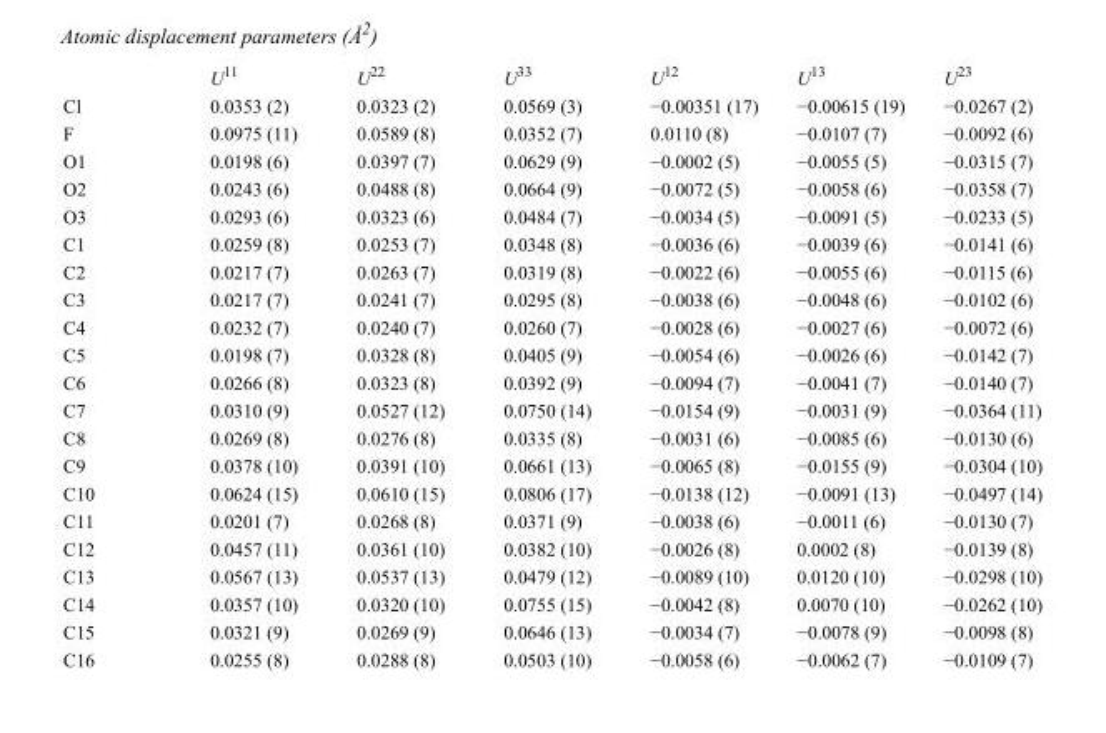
<table><thead><tr><td></td><td>U<sup>11</sup></td><td>U<sup>22</sup></td><td>U<sup>33</sup></td><td>U<sup>12</sup></td><td>U<sup>13</sup></td><td>U<sup>23</sup></td></tr></thead><tbody><tr><td>Cl</td><td>0.0353 (2)</td><td>0.0323 (2)</td><td>0.0569 (3)</td><td>−0.00351 (17)</td><td>−0.00615 (19)</td><td>−0.0267 (2)</td></tr><tr><td>F</td><td>0.0975 (11)</td><td>0.0589 (8)</td><td>0.0352 (7)</td><td>0.0110 (8)</td><td>−0.0107 (7)</td><td>−0.0092 (6)</td></tr><tr><td>O1</td><td>0.0198 (6)</td><td>0.0397 (7)</td><td>0.0629 (9)</td><td>−0.0002 (5)</td><td>−0.0055 (5)</td><td>−0.0315 (7)</td></tr><tr><td>O2</td><td>0.0243 (6)</td><td>0.0488 (8)</td><td>0.0664 (9)</td><td>−0.0072 (5)</td><td>−0.0058 (6)</td><td>−0.0358 (7)</td></tr><tr><td>O3</td><td>0.0293 (6)</td><td>0.0323 (6)</td><td>0.0484 (7)</td><td>−0.0034 (5)</td><td>−0.0091 (5)</td><td>−0.0233 (5)</td></tr><tr><td>C1</td><td>0.0259 (8)</td><td>0.0253 (7)</td><td>0.0348 (8)</td><td>−0.0036 (6)</td><td>−0.0039 (6)</td><td>−0.0141 (6)</td></tr><tr><td>C2</td><td>0.0217 (7)</td><td>0.0263 (7)</td><td>0.0319 (8)</td><td>−0.0022 (6)</td><td>−0.0055 (6)</td><td>−0.0115 (6)</td></tr><tr><td>C3</td><td>0.0217 (7)</td><td>0.0241 (7)</td><td>0.0295 (8)</td><td>−0.0038 (6)</td><td>−0.0048 (6)</td><td>−0.0102 (6)</td></tr><tr><td>C4</td><td>0.0232 (7)</td><td>0.0240 (7)</td><td>0.0260 (7)</td><td>−0.0028 (6)</td><td>−0.0027 (6)</td><td>−0.0072 (6)</td></tr><tr><td>C5</td><td>0.0198 (7)</td><td>0.0328 (8)</td><td>0.0405 (9)</td><td>−0.0054 (6)</td><td>−0.0026 (6)</td><td>−0.0142 (7)</td></tr><tr><td>C6</td><td>0.0266 (8)</td><td>0.0323 (8)</td><td>0.0392 (9)</td><td>−0.0094 (7)</td><td>−0.0041 (7)</td><td>−0.0140 (7)</td></tr><tr><td>C7</td><td>0.0310 (9)</td><td>0.0527 (12)</td><td>0.0750 (14)</td><td>−0.0154 (9)</td><td>−0.0031 (9)</td><td>−0.0364 (11)</td></tr><tr><td>C8</td><td>0.0269 (8)</td><td>0.0276 (8)</td><td>0.0335 (8)</td><td>−0.0031 (6)</td><td>−0.0085 (6)</td><td>−0.0130 (6)</td></tr><tr><td>C9</td><td>0.0378 (10)</td><td>0.0391 (10)</td><td>0.0661 (13)</td><td>−0.0065 (8)</td><td>−0.0155 (9)</td><td>−0.0304 (10)</td></tr><tr><td>C10</td><td>0.0624 (15)</td><td>0.0610 (15)</td><td>0.0806 (17)</td><td>−0.0138 (12)</td><td>−0.0091 (13)</td><td>−0.0497 (14)</td></tr><tr><td>C11</td><td>0.0201 (7)</td><td>0.0268 (8)</td><td>0.0371 (9)</td><td>−0.0038 (6)</td><td>−0.0011 (6)</td><td>−0.0130 (7)</td></tr><tr><td>C12</td><td>0.0457 (11)</td><td>0.0361 (10)</td><td>0.0382 (10)</td><td>−0.0026 (8)</td><td>0.0002 (8)</td><td>−0.0139 (8)</td></tr><tr><td>C13</td><td>0.0567 (13)</td><td>0.0537 (13)</td><td>0.0479 (12)</td><td>−0.0089 (10)</td><td>0.0120 (10)</td><td>−0.0298 (10)</td></tr><tr><td>C14</td><td>0.0357 (10)</td><td>0.0320 (10)</td><td>0.0755 (15)</td><td>−0.0042 (8)</td><td>0.0070 (10)</td><td>−0.0262 (10)</td></tr><tr><td>C15</td><td>0.0321 (9)</td><td>0.0269 (9)</td><td>0.0646 (13)</td><td>−0.0034 (7)</td><td>−0.0078 (9)</td><td>−0.0098 (8)</td></tr><tr><td>C16</td><td>0.0255 (8)</td><td>0.0288 (8)</td><td>0.0503 (10)</td><td>−0.0058 (6)</td><td>−0.0062 (7)</td><td>−0.0109 (7)</td></tr></tbody></table>